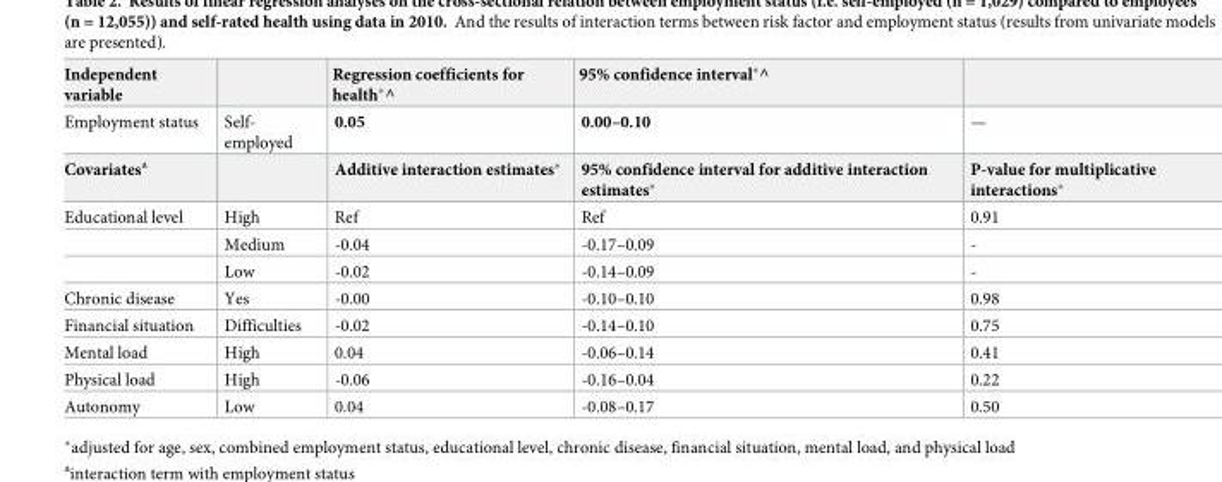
<table><thead><tr><td>Independent variable</td><td></td><td>Regression coefficients for health*^</td><td>95% confidence interval*^</td><td></td></tr></thead><tbody><tr><td>Employment status</td><td>Self- employed</td><td>0.05</td><td>0.00–0.10</td><td>—</td></tr><tr><td>Covariates<sup>a</sup></td><td></td><td>Additive interaction estimates*</td><td>95% confidence interval for additive interaction estimates*</td><td>P-value for multiplicative interactions*</td></tr><tr><td rowspan="3">Educational level</td><td>High</td><td>Ref</td><td>Ref</td><td>0.91</td></tr><tr><td>Medium</td><td>-0.04</td><td>-0.17–0.09</td><td>-</td></tr><tr><td>Low</td><td>-0.02</td><td>-0.14–0.09</td><td>-</td></tr><tr><td>Chronic disease</td><td>Yes</td><td>-0.00</td><td>-0.10–0.10</td><td>0.98</td></tr><tr><td>Financial situation</td><td>Difficulties</td><td>-0.02</td><td>-0.14–0.10</td><td>0.75</td></tr><tr><td>Mental load</td><td>High</td><td>0.04</td><td>-0.06–0.14</td><td>0.41</td></tr><tr><td>Physical load</td><td>High</td><td>-0.06</td><td>-0.16–0.04</td><td>0.22</td></tr><tr><td>Autonomy</td><td>Low</td><td>0.04</td><td>-0.08–0.17</td><td>0.50</td></tr></tbody></table>